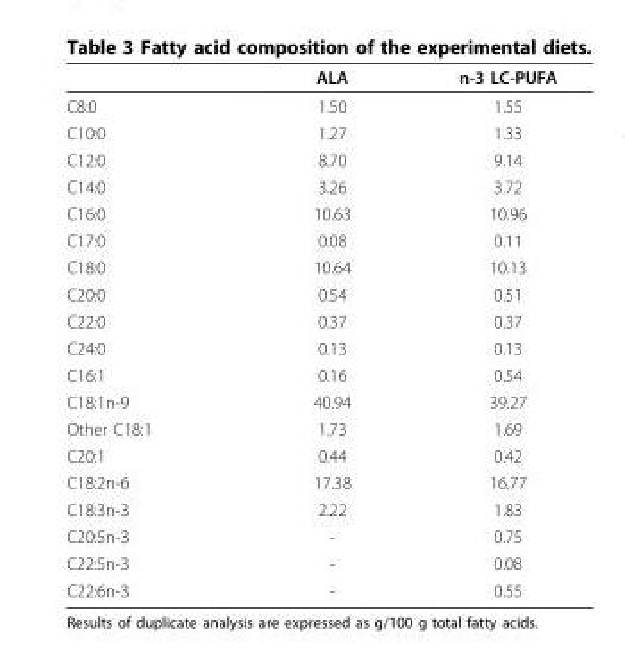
<table><thead><tr><td></td><td>ALA</td><td>n-3 LC-PUFA</td></tr></thead><tbody><tr><td>C8:0</td><td>1.50</td><td>1.55</td></tr><tr><td>C10:0</td><td>1.27</td><td>1.33</td></tr><tr><td>C12:0</td><td>8.70</td><td>9.14</td></tr><tr><td>C14:0</td><td>3.26</td><td>3.72</td></tr><tr><td>C16:0</td><td>10.63</td><td>10.96</td></tr><tr><td>C17:0</td><td>0.08</td><td>0.11</td></tr><tr><td>C18:0</td><td>10.64</td><td>10.13</td></tr><tr><td>C20:0</td><td>0.54</td><td>0.51</td></tr><tr><td>C22:0</td><td>0.37</td><td>0.37</td></tr><tr><td>C24:0</td><td>0.13</td><td>0.13</td></tr><tr><td>C16:1</td><td>0.16</td><td>0.54</td></tr><tr><td>C18:1n-9</td><td>40.94</td><td>39.27</td></tr><tr><td>Other C18:1</td><td>1.73</td><td>1.69</td></tr><tr><td>C20:1</td><td>0.44</td><td>0.42</td></tr><tr><td>C18:2n-6</td><td>17.38</td><td>16.77</td></tr><tr><td>C18:3n-3</td><td>2.22</td><td>1.83</td></tr><tr><td>C20:5n-3</td><td>-</td><td>0.75</td></tr><tr><td>C22:5n-3</td><td>-</td><td>0.08</td></tr><tr><td>C22:6n-3</td><td>-</td><td>0.55</td></tr></tbody></table>